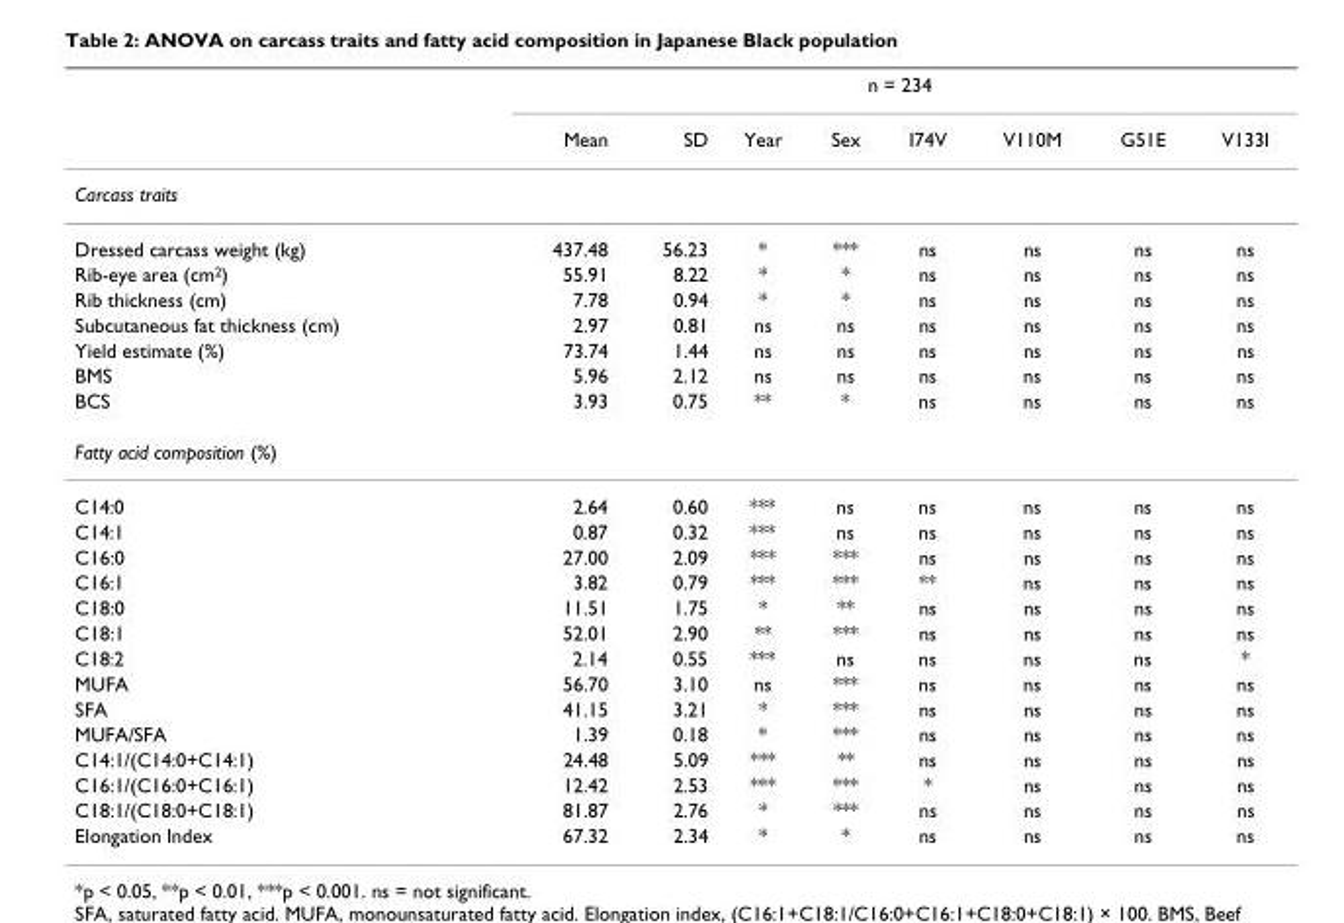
<table><thead><tr><td rowspan="2"></td><td colspan="8">n = 234</td></tr><tr><td>Mean</td><td>SD</td><td>Year</td><td>Sex</td><td>I74V</td><td>V110M</td><td>G51E</td><td>V133I</td></tr></thead><tbody><tr><td colspan="9">Carcass traits</td></tr><tr><td>Dressed carcass weight (kg)</td><td>437.48</td><td>56.23</td><td>*</td><td>***</td><td>ns</td><td>ns</td><td>ns</td><td>ns</td></tr><tr><td>Rib-eye area (cm<sup>2</sup>)</td><td>55.91</td><td>8.22</td><td>*</td><td>*</td><td>ns</td><td>ns</td><td>ns</td><td>ns</td></tr><tr><td>Rib thickness (cm)</td><td>7.78</td><td>0.94</td><td>*</td><td>*</td><td>ns</td><td>ns</td><td>ns</td><td>ns</td></tr><tr><td>Subcutaneous fat thickness (cm)</td><td>2.97</td><td>0.81</td><td>ns</td><td>ns</td><td>ns</td><td>ns</td><td>ns</td><td>ns</td></tr><tr><td>Yield estimate (%)</td><td>73.74</td><td>1.44</td><td>ns</td><td>ns</td><td>ns</td><td>ns</td><td>ns</td><td>ns</td></tr><tr><td>BMS</td><td>5.96</td><td>2.12</td><td>ns</td><td>ns</td><td>ns</td><td>ns</td><td>ns</td><td>ns</td></tr><tr><td>BCS</td><td>3.93</td><td>0.75</td><td>**</td><td>*</td><td>ns</td><td>ns</td><td>ns</td><td>ns</td></tr><tr><td colspan="9">Fatty acid composition (%)</td></tr><tr><td>C14:0</td><td>2.64</td><td>0.60</td><td>***</td><td>ns</td><td>ns</td><td>ns</td><td>ns</td><td>ns</td></tr><tr><td>C14:1</td><td>0.87</td><td>0.32</td><td>***</td><td>ns</td><td>ns</td><td>ns</td><td>ns</td><td>ns</td></tr><tr><td>C16:0</td><td>27.00</td><td>2.09</td><td>***</td><td>***</td><td>ns</td><td>ns</td><td>ns</td><td>ns</td></tr><tr><td>C16:1</td><td>3.82</td><td>0.79</td><td>***</td><td>***</td><td>**</td><td>ns</td><td>ns</td><td>ns</td></tr><tr><td>C18:0</td><td>11.51</td><td>1.75</td><td>*</td><td>**</td><td>ns</td><td>ns</td><td>ns</td><td>ns</td></tr><tr><td>C18:1</td><td>52.01</td><td>2.90</td><td>**</td><td>***</td><td>ns</td><td>ns</td><td>ns</td><td>ns</td></tr><tr><td>C18:2</td><td>2.14</td><td>0.55</td><td>***</td><td>ns</td><td>ns</td><td>ns</td><td>ns</td><td>*</td></tr><tr><td>MUFA</td><td>56.70</td><td>3.10</td><td>ns</td><td>***</td><td>ns</td><td>ns</td><td>ns</td><td>ns</td></tr><tr><td>SFA</td><td>41.15</td><td>3.21</td><td>*</td><td>***</td><td>ns</td><td>ns</td><td>ns</td><td>ns</td></tr><tr><td>MUFA/SFA</td><td>1.39</td><td>0.18</td><td>*</td><td>***</td><td>ns</td><td>ns</td><td>ns</td><td>ns</td></tr><tr><td>C14:1/(C14:0+C14:1)</td><td>24.48</td><td>5.09</td><td>***</td><td>**</td><td>ns</td><td>ns</td><td>ns</td><td>ns</td></tr><tr><td>C16:1/(C16:0+C16:1)</td><td>12.42</td><td>2.53</td><td>***</td><td>***</td><td>*</td><td>ns</td><td>ns</td><td>ns</td></tr><tr><td>C18:1/(C18:0+C18:1)</td><td>81.87</td><td>2.76</td><td>*</td><td>***</td><td>ns</td><td>ns</td><td>ns</td><td>ns</td></tr><tr><td>Elongation Index</td><td>67.32</td><td>2.34</td><td>*</td><td>*</td><td>ns</td><td>ns</td><td>ns</td><td>ns</td></tr></tbody></table>